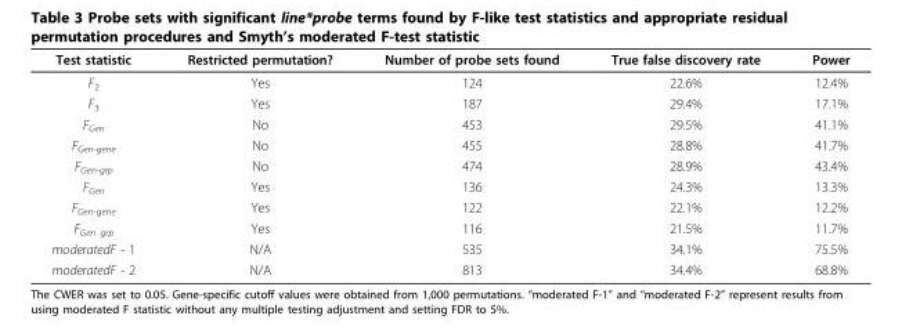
<table><thead><tr><td>Test statistic</td><td>Restricted permutation?</td><td>Number of probe sets found</td><td>True false discovery rate</td><td>Power</td></tr></thead><tbody><tr><td>F<sub>2</sub></td><td>Yes</td><td>124</td><td>22.6%</td><td>12.4%</td></tr><tr><td>F<sub>3</sub></td><td>Yes</td><td>187</td><td>29.4%</td><td>17.1%</td></tr><tr><td>F<sub>Gen</sub></td><td>No</td><td>453</td><td>29.5%</td><td>41.1%</td></tr><tr><td>F<sub>Gen-gene</sub></td><td>No</td><td>455</td><td>28.8%</td><td>41.7%</td></tr><tr><td>F<sub>Gen-grp</sub></td><td>No</td><td>474</td><td>28.9%</td><td>43.4%</td></tr><tr><td>F<sub>Gen</sub></td><td>Yes</td><td>136</td><td>24.3%</td><td>13.3%</td></tr><tr><td>F<sub>Gen-gene</sub></td><td>Yes</td><td>122</td><td>22.1%</td><td>12.2%</td></tr><tr><td>F<sub>Gen grp</sub></td><td>Yes</td><td>116</td><td>21.5%</td><td>11.7%</td></tr><tr><td>moderatedF - 1</td><td>N/A</td><td>535</td><td>34.1%</td><td>75.5%</td></tr><tr><td>moderatedF - 2</td><td>N/A</td><td>813</td><td>34.4%</td><td>68.8%</td></tr></tbody></table>